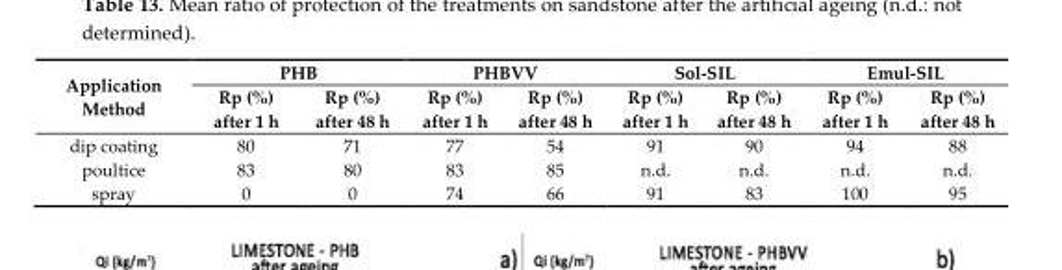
<table><thead><tr><td rowspan="2">Application Method</td><td colspan="2">PHB</td><td colspan="2">PHBVV</td><td colspan="2">Sol-SIL</td><td colspan="2">Emul-SIL</td></tr><tr><td>Rp (%) after 1 h</td><td>Rp (%) after 48 h</td><td>Rp (%) after 1 h</td><td>Rp (%) after 48 h</td><td>Rp (%) after 1 h</td><td>Rp (%) after 48 h</td><td>Rp (%) after 1 h</td><td>Rp (%) after 48 h</td></tr></thead><tbody><tr><td>dip coating</td><td>80</td><td>71</td><td>77</td><td>54</td><td>91</td><td>90</td><td>94</td><td>88</td></tr><tr><td>poultice</td><td>83</td><td>80</td><td>83</td><td>85</td><td>n.d.</td><td>n.d.</td><td>n.d.</td><td>n.d.</td></tr><tr><td>spray</td><td>0</td><td>0</td><td>74</td><td>66</td><td>91</td><td>83</td><td>100</td><td>95</td></tr></tbody></table>